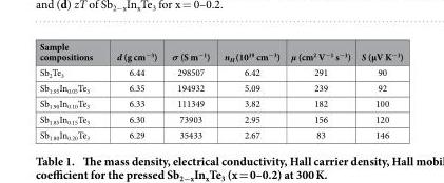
<table><thead><tr><td>Sample compositions</td><td>d (g cm<sup>−3</sup>)</td><td>σ (S m<sup>−1</sup>)</td><td>n<sub>H</sub> (10<sup>19</sup> cm<sup>−3</sup>)</td><td>μ (cm<sup>2</sup> V<sup>−1</sup> s<sup>−1</sup>)</td><td>S (μV K<sup>−1</sup>)</td></tr></thead><tbody><tr><td>Sb<sub>2</sub>Te<sub>3</sub></td><td>6.44</td><td>298507</td><td>6.42</td><td>291</td><td>90</td></tr><tr><td>Sb<sub>1.95</sub>In<sub>0.05</sub>Te<sub>3</sub></td><td>6.35</td><td>194932</td><td>5.09</td><td>239</td><td>92</td></tr><tr><td>Sb<sub>1.90</sub>In<sub>0.10</sub>Te<sub>3</sub></td><td>6.33</td><td>111349</td><td>3.82</td><td>182</td><td>100</td></tr><tr><td>Sb<sub>1.85</sub>In<sub>0.15</sub>Te<sub>3</sub></td><td>6.30</td><td>73903</td><td>2.95</td><td>156</td><td>120</td></tr><tr><td>Sb<sub>1.80</sub>In<sub>0.20</sub>Te<sub>3</sub></td><td>6.29</td><td>35433</td><td>2.67</td><td>83</td><td>146</td></tr></tbody></table>